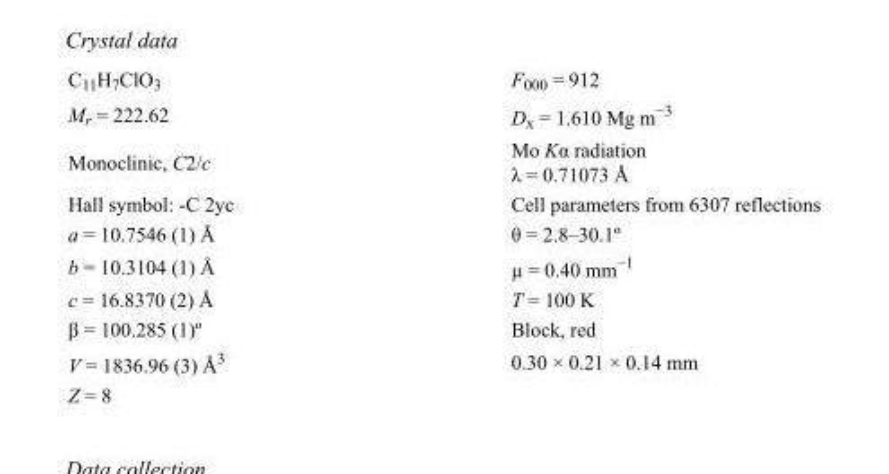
<table><tbody><tr><td>C<sub>11</sub>H<sub>7</sub>ClO<sub>3</sub></td><td>F000 = 912</td></tr><tr><td>M<sub>r</sub> = 222.62</td><td>D<sub>x</sub> = 1.610 Mg m<sup>−3</sup></td></tr><tr><td>Monoclinic, C2/c</td><td>Mo Kα radiation λ = 0.71073 Å</td></tr><tr><td>Hall symbol: -C 2yc</td><td>Cell parameters from 6307 reflections</td></tr><tr><td>a = 10.7546 (1) Å</td><td>θ = 2.8–30.1º</td></tr><tr><td>b = 10.3104 (1) Å</td><td>µ = 0.40 mm<sup>−1</sup></td></tr><tr><td>c = 16.8370 (2) Å</td><td>T = 100 K</td></tr><tr><td>β = 100.285 (1)º</td><td>Block, red</td></tr><tr><td>V = 1836.96 (3) Å<sup>3</sup></td><td>0.30 × 0.21 × 0.14 mm</td></tr><tr><td>Z = 8</td><td></td></tr></tbody></table>